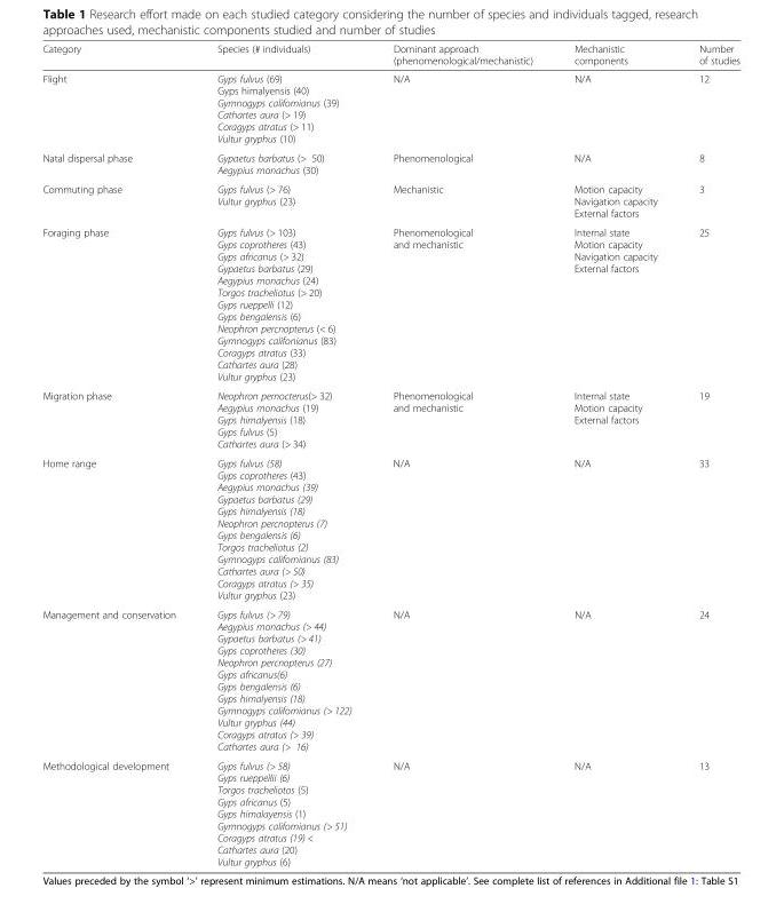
<table><thead><tr><td>Category</td><td>Species (# individuals)</td><td>Dominant approach (phenomenological/mechanistic)</td><td>Mechanistic components</td><td>Number of studies</td></tr></thead><tbody><tr><td>Flight</td><td>Gyps fulvus (69) Gyps himalyensis (40) Gymnogyps californianus (39) Cathartes aura (&gt; 19) Coragyps atratus (&gt; 11) Vultur gryphus (10)</td><td>N/A</td><td>N/A</td><td>12</td></tr><tr><td>Natal dispersal phase</td><td>Gypaetus barbatus (&gt; 50) Aegypius monachus (30)</td><td>Phenomenological</td><td>N/A</td><td>8</td></tr><tr><td>Commuting phase</td><td>Gyps fulvus (&gt; 76) Vultur gryphus (23)</td><td>Mechanistic</td><td>Motion capacity Navigation capacity External factors</td><td>3</td></tr><tr><td>Foraging phase</td><td>Gyps fulvus (&gt; 103) Gyps coprotheres (43) Gyps africanus (&gt; 32) Gypaetus barbatus (29) Aegypius monachus (24) Torgos tracheliotus (&gt; 20) Gyps rueppelli (12) Gyps bengalensis (6) Neophron percnopterus (&lt; 6) Gymnogyps califonianus (83) Coragyps atratus (33) Cathartes aura (28) Vultur gryphus (23)</td><td>Phenomenological and mechanistic</td><td>Internal state Motion capacity Navigation capacity External factors</td><td>25</td></tr><tr><td>Migration phase</td><td>Neophron pernocterus(&gt; 32) Aegypius monachus (19) Gyps himalyensis (18) Gyps fulvus (5) Cathartes aura (&gt; 34)</td><td>Phenomenological and mechanistic</td><td>Internal state Motion capacity External factors</td><td>19</td></tr><tr><td>Home range</td><td>Gyps fulvus (58) Gyps coprotheres (43) Aegypius monachus (39) Gypaetus barbatus (29) Gyps himalyensis (18) Neophron percnopterus (7) Gyps bengalensis (6) Torgos tracheliotus (2) Gymnogyps californianus (83) Cathartes aura (&gt; 50) Coragyps atratus (&gt; 35) Vultur gryphus (23)</td><td>N/A</td><td>N/A</td><td>33</td></tr><tr><td>Management and conservation</td><td>Gyps fulvus (&gt; 79) Aegypius monachus (&gt; 44) Gypaetus barbatus (&gt; 41) Gyps coprotheres (30) Neophron percnopterus (27) Gyps africanus(6) Gyps bengalensis (6) Gyps himalyensis (18) Gymnogyps californianus (&gt; 122) Vultur gryphus (44) Coragyps atratus (&gt; 39) Cathartes aura (&gt; 16)</td><td>N/A</td><td>N/A</td><td>24</td></tr><tr><td>Methodological development</td><td>Gyps fulvus (&gt; 58) Gyps rueppellii (6) Torgos tracheliotos (5) Gyps africanus (5) Gyps himalayensis (1) Gymnogyps californianus (&gt; 51) Coragyps atratus (19) &lt; Cathartes aura (20) Vultur gryphus (6)</td><td>N/A</td><td>N/A</td><td>13</td></tr></tbody></table>